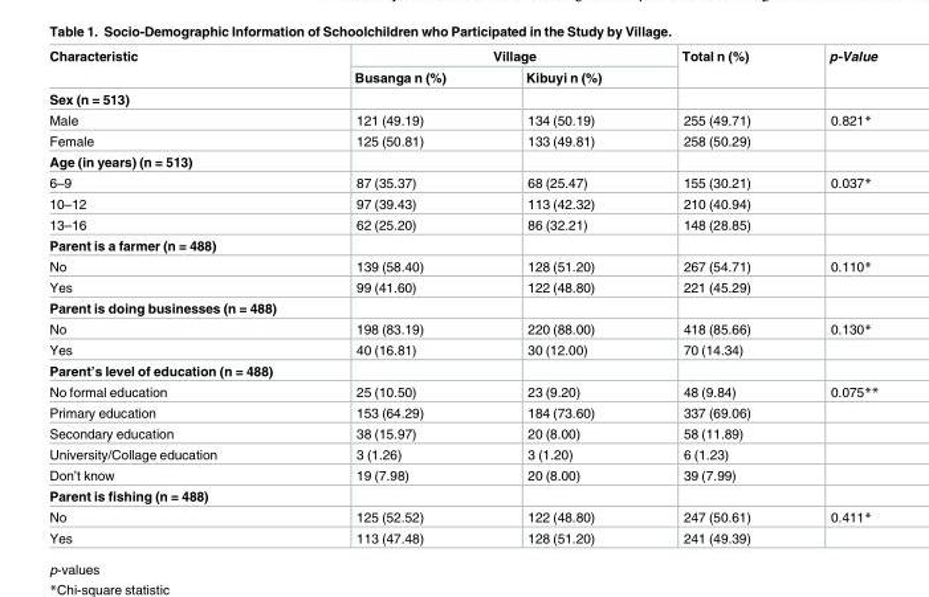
<table><thead><tr><td rowspan="2">Characteristic</td><td colspan="2">Village</td><td rowspan="2">Total n (%)</td><td rowspan="2">p-Value</td></tr><tr><td>Busanga n (%)</td><td>Kibuyi n (%)</td></tr></thead><tbody><tr><td colspan="5">Sex (n = 513)</td></tr><tr><td>Male</td><td>121 (49.19)</td><td>134 (50.19)</td><td>255 (49.71)</td><td>0.821*</td></tr><tr><td>Female</td><td>125 (50.81)</td><td>133 (49.81)</td><td>258 (50.29)</td><td></td></tr><tr><td colspan="5">Age (in years) (n = 513)</td></tr><tr><td>6–9</td><td>87 (35.37)</td><td>68 (25.47)</td><td>155 (30.21)</td><td>0.037*</td></tr><tr><td>10–12</td><td>97 (39.43)</td><td>113 (42.32)</td><td>210 (40.94)</td><td></td></tr><tr><td>13–16</td><td>62 (25.20)</td><td>86 (32.21)</td><td>148 (28.85)</td><td></td></tr><tr><td colspan="5">Parent is a farmer (n = 488)</td></tr><tr><td>No</td><td>139 (58.40)</td><td>128 (51.20)</td><td>267 (54.71)</td><td>0.110*</td></tr><tr><td>Yes</td><td>99 (41.60)</td><td>122 (48.80)</td><td>221 (45.29)</td><td></td></tr><tr><td colspan="5">Parent is doing businesses (n = 488)</td></tr><tr><td>No</td><td>198 (83.19)</td><td>220 (88.00)</td><td>418 (85.66)</td><td>0.130*</td></tr><tr><td>Yes</td><td>40 (16.81)</td><td>30 (12.00)</td><td>70 (14.34)</td><td></td></tr><tr><td colspan="5">Parent’s level of education (n = 488)</td></tr><tr><td>No formal education</td><td>25 (10.50)</td><td>23 (9.20)</td><td>48 (9.84)</td><td>0.075**</td></tr><tr><td>Primary education</td><td>153 (64.29)</td><td>184 (73.60)</td><td>337 (69.06)</td><td></td></tr><tr><td>Secondary education</td><td>38 (15.97)</td><td>20 (8.00)</td><td>58 (11.89)</td><td></td></tr><tr><td>University/Collage education</td><td>3 (1.26)</td><td>3 (1.20)</td><td>6 (1.23)</td><td></td></tr><tr><td>Don’t know</td><td>19 (7.98)</td><td>20 (8.00)</td><td>39 (7.99)</td><td></td></tr><tr><td colspan="5">Parent is fishing (n = 488)</td></tr><tr><td>No</td><td>125 (52.52)</td><td>122 (48.80)</td><td>247 (50.61)</td><td>0.411*</td></tr><tr><td>Yes</td><td>113 (47.48)</td><td>128 (51.20)</td><td>241 (49.39)</td><td></td></tr></tbody></table>